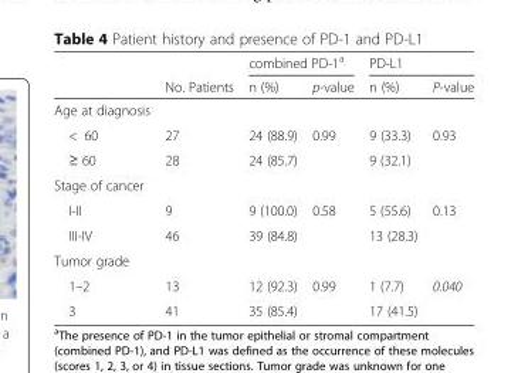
<table><thead><tr><td rowspan="2"></td><td rowspan="2">No. Patients</td><td colspan="2">combined PD-1<sup>a</sup></td><td colspan="2">PD-L1</td></tr><tr><td>n (%)</td><td>p-value</td><td>n (%)</td><td>P-value</td></tr></thead><tbody><tr><td colspan="6">Age at diagnosis</td></tr><tr><td>&lt; 60</td><td>27</td><td>24 (88.9)</td><td rowspan="2">0.99</td><td>9 (33.3)</td><td rowspan="2">0.93</td></tr><tr><td>≥ 60</td><td>28</td><td>24 (85.7)</td><td>9 (32.1)</td></tr><tr><td colspan="6">Stage of cancer</td></tr><tr><td>I-II</td><td>9</td><td>9 (100.0)</td><td rowspan="2">0.58</td><td>5 (55.6)</td><td rowspan="2">0.13</td></tr><tr><td>III-IV</td><td>46</td><td>39 (84.8)</td><td>13 (28.3)</td></tr><tr><td colspan="6">Tumor grade</td></tr><tr><td>1–2</td><td>13</td><td>12 (92.3)</td><td rowspan="2">0.99</td><td>1 (7.7)</td><td rowspan="2">0.040</td></tr><tr><td>3</td><td>41</td><td>35 (85.4)</td><td>17 (41.5)</td></tr></tbody></table>